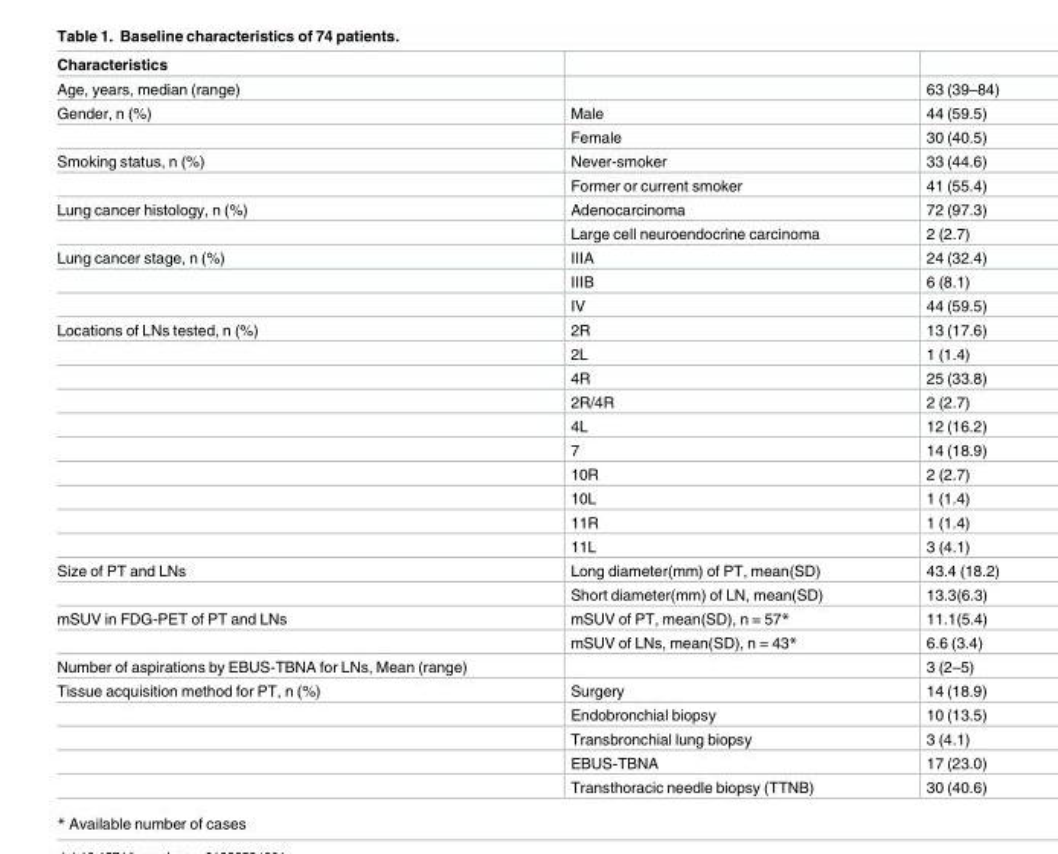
<table><thead><tr><td>Characteristics</td><td></td><td></td></tr></thead><tbody><tr><td>Age, years, median (range)</td><td></td><td>63 (39–84)</td></tr><tr><td rowspan="2">Gender, n (%)</td><td>Male</td><td>44 (59.5)</td></tr><tr><td>Female</td><td>30 (40.5)</td></tr><tr><td rowspan="2">Smoking status, n (%)</td><td>Never-smoker</td><td>33 (44.6)</td></tr><tr><td>Former or current smoker</td><td>41 (55.4)</td></tr><tr><td rowspan="2">Lung cancer histology, n (%)</td><td>Adenocarcinoma</td><td>72 (97.3)</td></tr><tr><td>Large cell neuroendocrine carcinoma</td><td>2 (2.7)</td></tr><tr><td rowspan="3">Lung cancer stage, n (%)</td><td>IIIA</td><td>24 (32.4)</td></tr><tr><td>IIIB</td><td>6 (8.1)</td></tr><tr><td>IV</td><td>44 (59.5)</td></tr><tr><td rowspan="10">Locations of LNs tested, n (%)</td><td>2R</td><td>13 (17.6)</td></tr><tr><td>2L</td><td>1 (1.4)</td></tr><tr><td>4R</td><td>25 (33.8)</td></tr><tr><td>2R/4R</td><td>2 (2.7)</td></tr><tr><td>4L</td><td>12 (16.2)</td></tr><tr><td>7</td><td>14 (18.9)</td></tr><tr><td>10R</td><td>2 (2.7)</td></tr><tr><td>10L</td><td>1 (1.4)</td></tr><tr><td>11R</td><td>1 (1.4)</td></tr><tr><td>11L</td><td>3 (4.1)</td></tr><tr><td rowspan="2">Size of PT and LNs</td><td>Long diameter(mm) of PT, mean(SD)</td><td>43.4 (18.2)</td></tr><tr><td>Short diameter(mm) of LN, mean(SD)</td><td>13.3(6.3)</td></tr><tr><td rowspan="2">mSUV in FDG-PET of PT and LNs</td><td>mSUV of PT, mean(SD), n = 57*</td><td>11.1(5.4)</td></tr><tr><td>mSUV of LNs, mean(SD), n = 43*</td><td>6.6 (3.4)</td></tr><tr><td>Number of aspirations by EBUS-TBNA for LNs, Mean (range)</td><td></td><td>3 (2–5)</td></tr><tr><td rowspan="5">Tissue acquisition method for PT, n (%)</td><td>Surgery</td><td>14 (18.9)</td></tr><tr><td>Endobronchial biopsy</td><td>10 (13.5)</td></tr><tr><td>Transbronchial lung biopsy</td><td>3 (4.1)</td></tr><tr><td>EBUS-TBNA</td><td>17 (23.0)</td></tr><tr><td>Transthoracic needle biopsy (TTNB)</td><td>30 (40.6)</td></tr></tbody></table>